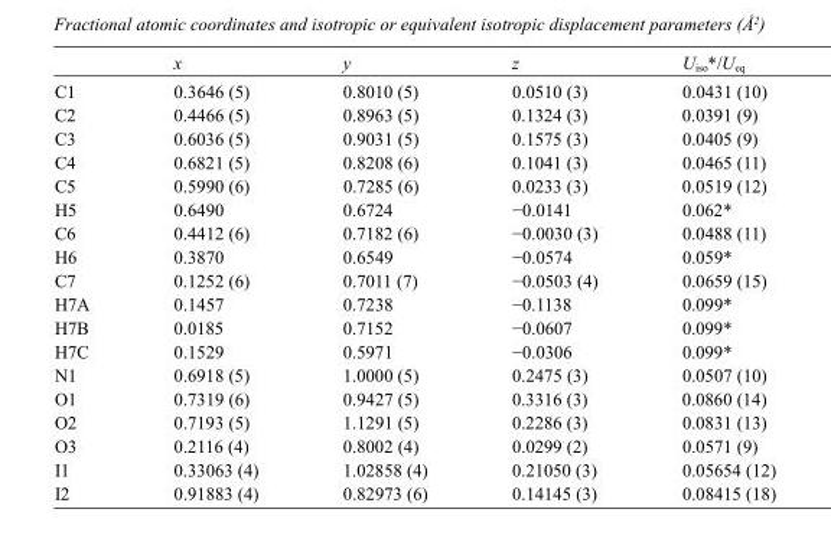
<table><thead><tr><td></td><td>x</td><td>y</td><td>z</td><td>U<sub>iso</sub>*/U<sub>eq</sub></td></tr></thead><tbody><tr><td>C1</td><td>0.3646 (5)</td><td>0.8010 (5)</td><td>0.0510 (3)</td><td>0.0431 (10)</td></tr><tr><td>C2</td><td>0.4466 (5)</td><td>0.8963 (5)</td><td>0.1324 (3)</td><td>0.0391 (9)</td></tr><tr><td>C3</td><td>0.6036 (5)</td><td>0.9031 (5)</td><td>0.1575 (3)</td><td>0.0405 (9)</td></tr><tr><td>C4</td><td>0.6821 (5)</td><td>0.8208 (6)</td><td>0.1041 (3)</td><td>0.0465 (11)</td></tr><tr><td>C5</td><td>0.5990 (6)</td><td>0.7285 (6)</td><td>0.0233 (3)</td><td>0.0519 (12)</td></tr><tr><td>H5</td><td>0.6490</td><td>0.6724</td><td>−0.0141</td><td>0.062*</td></tr><tr><td>C6</td><td>0.4412 (6)</td><td>0.7182 (6)</td><td>−0.0030 (3)</td><td>0.0488 (11)</td></tr><tr><td>H6</td><td>0.3870</td><td>0.6549</td><td>−0.0574</td><td>0.059*</td></tr><tr><td>C7</td><td>0.1252 (6)</td><td>0.7011 (7)</td><td>−0.0503 (4)</td><td>0.0659 (15)</td></tr><tr><td>H7A</td><td>0.1457</td><td>0.7238</td><td>−0.1138</td><td>0.099*</td></tr><tr><td>H7B</td><td>0.0185</td><td>0.7152</td><td>−0.0607</td><td>0.099*</td></tr><tr><td>H7C</td><td>0.1529</td><td>0.5971</td><td>−0.0306</td><td>0.099*</td></tr><tr><td>N1</td><td>0.6918 (5)</td><td>1.0000 (5)</td><td>0.2475 (3)</td><td>0.0507 (10)</td></tr><tr><td>O1</td><td>0.7319 (6)</td><td>0.9427 (5)</td><td>0.3316 (3)</td><td>0.0860 (14)</td></tr><tr><td>O2</td><td>0.7193 (5)</td><td>1.1291 (5)</td><td>0.2286 (3)</td><td>0.0831 (13)</td></tr><tr><td>O3</td><td>0.2116 (4)</td><td>0.8002 (4)</td><td>0.0299 (2)</td><td>0.0571 (9)</td></tr><tr><td>I1</td><td>0.33063 (4)</td><td>1.02858 (4)</td><td>0.21050 (3)</td><td>0.05654 (12)</td></tr><tr><td>I2</td><td>0.91883 (4)</td><td>0.82973 (6)</td><td>0.14145 (3)</td><td>0.08415 (18)</td></tr></tbody></table>